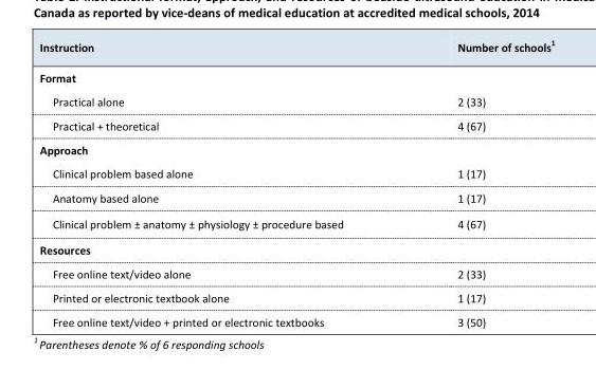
<table><thead><tr><td>Instruction</td><td>Number of schools<sup>1</sup></td></tr></thead><tbody><tr><td colspan="2">Format</td></tr><tr><td>Practical alone</td><td>2 (33)</td></tr><tr><td>Practical + theoretical</td><td>4 (67)</td></tr><tr><td colspan="2">Approach</td></tr><tr><td>Clinical problem based alone</td><td>1 (17)</td></tr><tr><td>Anatomy based alone</td><td>1 (17)</td></tr><tr><td>Clinical problem ± anatomy ± physiology ± procedure based</td><td>4 (67)</td></tr><tr><td colspan="2">Resources</td></tr><tr><td>Free online text/video alone</td><td>2 (33)</td></tr><tr><td>Printed or electronic textbook alone</td><td>1 (17)</td></tr><tr><td>Free online text/video + printed or electronic textbooks</td><td>3 (50)</td></tr></tbody></table>